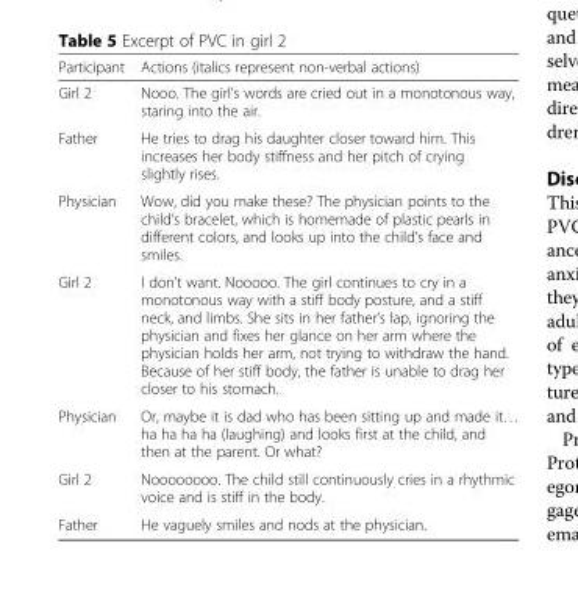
<table><thead><tr><td>Participant</td><td>Actions (italics represent non-verbal actions)</td></tr></thead><tbody><tr><td>Girl 2</td><td>Nooo. The girl’s words are cried out in a monotonous way, staring into the air.</td></tr><tr><td>Father</td><td>He tries to drag his daughter closer toward him. This increases her body stiffness and her pitch of crying slightly rises.</td></tr><tr><td>Physician</td><td>Wow, did you make these? The physician points to the child’s bracelet, which is homemade of plastic pearls in different colors, and looks up into the child’s face and smiles.</td></tr><tr><td>Girl 2</td><td>I don’t want. Nooooo. The girl continues to cry in a monotonous way with a stiff body posture, and a stiff neck, and limbs. She sits in her father’s lap, ignoring the physician and fixes her glance on her arm where the physician holds her arm, not trying to withdraw the hand. Because of her stiff body, the father is unable to drag her closer to his stomach.</td></tr><tr><td>Physician</td><td>Or, maybe it is dad who has been sitting up and made it… ha ha ha ha (laughing) and looks first at the child, and then at the parent. Or what?</td></tr><tr><td>Girl 2</td><td>Noooooooo. The child still continuously cries in a rhythmic voice and is stiff in the body.</td></tr><tr><td>Father</td><td>He vaguely smiles and nods at the physician.</td></tr></tbody></table>